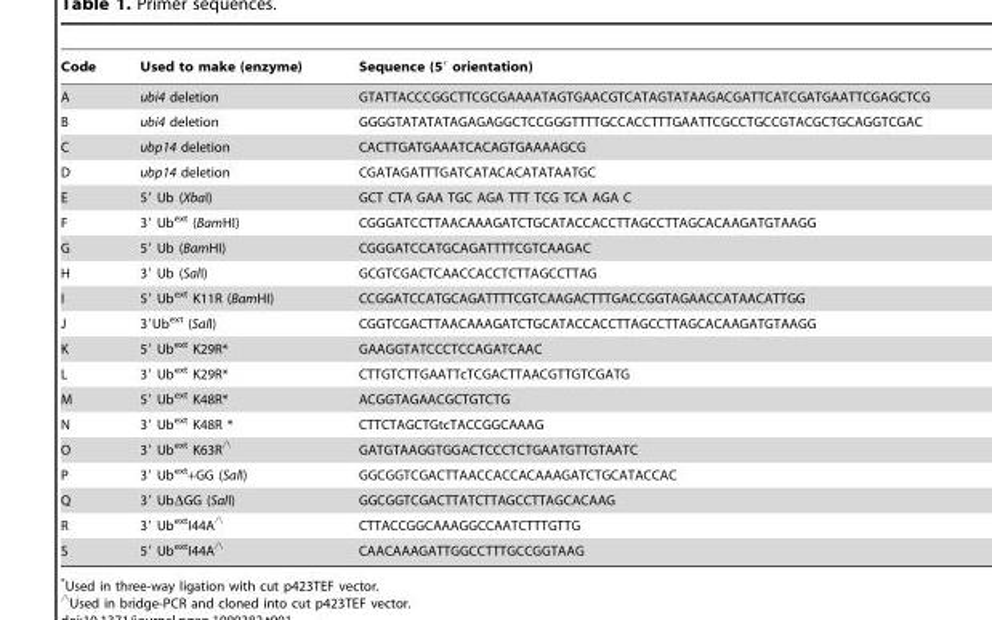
<table><thead><tr><td>Code</td><td>Used to make (enzyme)</td><td>Sequence (5′ orientation)</td></tr></thead><tbody><tr><td>A</td><td>ubi4 deletion</td><td>GTATTACCCGGCTTCGCGAAAATAGTGAACGTCATAGTATAAGACGATTCATCGATGAATTCGAGCTCG</td></tr><tr><td>B</td><td>ubi4 deletion</td><td>GGGGTATATATAGAGAGGCTCCGGGTTTTGCCACCTTTGAATTCGCCTGCCGTACGCTGCAGGTCGAC</td></tr><tr><td>C</td><td>ubp14 deletion</td><td>CACTTGATGAAATCACAGTGAAAAGCG</td></tr><tr><td>D</td><td>ubp14 deletion</td><td>CGATAGATTTGATCATACACATATAATGC</td></tr><tr><td>E</td><td>5′ Ub (XbaI)</td><td>GCT CTA GAA TGC AGA TTT TCG TCA AGA C</td></tr><tr><td>F</td><td>3′ Ub<sup>ext</sup> (BamHI)</td><td>CGGGATCCTTAACAAAGATCTGCATACCACCTTAGCCTTAGCACAAGATGTAAGG</td></tr><tr><td>G</td><td>5′ Ub (BamHI)</td><td>CGGGATCCATGCAGATTTTCGTCAAGAC</td></tr><tr><td>H</td><td>3′ Ub (SalI)</td><td>GCGTCGACTCAACCACCTCTTAGCCTTAG</td></tr><tr><td>I</td><td>5′ Ub<sup>ext</sup> K11R (BamHI)</td><td>CCGGATCCATGCAGATTTTCGTCAAGACTTTGACCGGTAGAACCATAACATTGG</td></tr><tr><td>J</td><td>3′Ub<sup>ext</sup> (SalI)</td><td>CGGTCGACTTAACAAAGATCTGCATACCACCTTAGCCTTAGCACAAGATGTAAGG</td></tr><tr><td>K</td><td>5′ Ub<sup>ext</sup> K29R*</td><td>GAAGGTATCCCTCCAGATCAAC</td></tr><tr><td>L</td><td>3′ Ub<sup>ext</sup> K29R*</td><td>CTTGTCTTGAATTcTCGACTTAACGTTGTCGATG</td></tr><tr><td>M</td><td>5′ Ub<sup>ext</sup> K48R*</td><td>ACGGTAGAACGCTGTCTG</td></tr><tr><td>N</td><td>3′ Ub<sup>ext</sup> K48R *</td><td>CTTCTAGCTGtcTACCGGCAAAG</td></tr><tr><td>O</td><td>39 Ubext K63R‘</td><td>GATGTAAGGTGGACTCCCTCTGAATGTTGTAATC</td></tr><tr><td>P</td><td>3′ Ub<sup>ext</sup>+GG (SalI)</td><td>GGCGGTCGACTTAACCACCACAAAGATCTGCATACCAC</td></tr><tr><td>Q</td><td>3′ UbΔGG (SalI)</td><td>GGCGGTCGACTTATCTTAGCCTTAGCACAAG</td></tr><tr><td>R</td><td>39 UbextI44A‘</td><td>CTTACCGGCAAAGGCCAATCTTTGTTG</td></tr><tr><td>S</td><td>59 UbextI44A‘</td><td>CAACAAAGATTGGCCTTTGCCGGTAAG</td></tr></tbody></table>